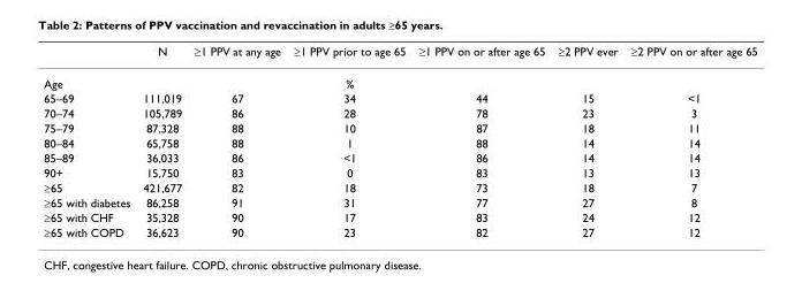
<table><thead><tr><td></td><td>N</td><td>≥1 PPV at any age</td><td>≥1 PPV prior to age 65</td><td>≥1 PPV on or after age 65</td><td>≥2 PPV ever</td><td>≥2 PPV on or after age 65</td></tr></thead><tbody><tr><td>Age</td><td></td><td></td><td>%</td><td></td><td></td><td></td></tr><tr><td>65–69</td><td>111,019</td><td>67</td><td>34</td><td>44</td><td>15</td><td>&lt;1</td></tr><tr><td>70–74</td><td>105,789</td><td>86</td><td>28</td><td>78</td><td>23</td><td>3</td></tr><tr><td>75–79</td><td>87,328</td><td>88</td><td>10</td><td>87</td><td>18</td><td>11</td></tr><tr><td>80–84</td><td>65,758</td><td>88</td><td>1</td><td>88</td><td>14</td><td>14</td></tr><tr><td>85–89</td><td>36,033</td><td>86</td><td>&lt;1</td><td>86</td><td>14</td><td>14</td></tr><tr><td>90+</td><td>15,750</td><td>83</td><td>0</td><td>83</td><td>13</td><td>13</td></tr><tr><td>≥65</td><td>421,677</td><td>82</td><td>18</td><td>73</td><td>18</td><td>7</td></tr><tr><td>≥65 with diabetes</td><td>86,258</td><td>91</td><td>31</td><td>77</td><td>27</td><td>8</td></tr><tr><td>≥65 with CHF</td><td>35,328</td><td>90</td><td>17</td><td>83</td><td>24</td><td>12</td></tr><tr><td>≥65 with COPD</td><td>36,623</td><td>90</td><td>23</td><td>82</td><td>27</td><td>12</td></tr></tbody></table>